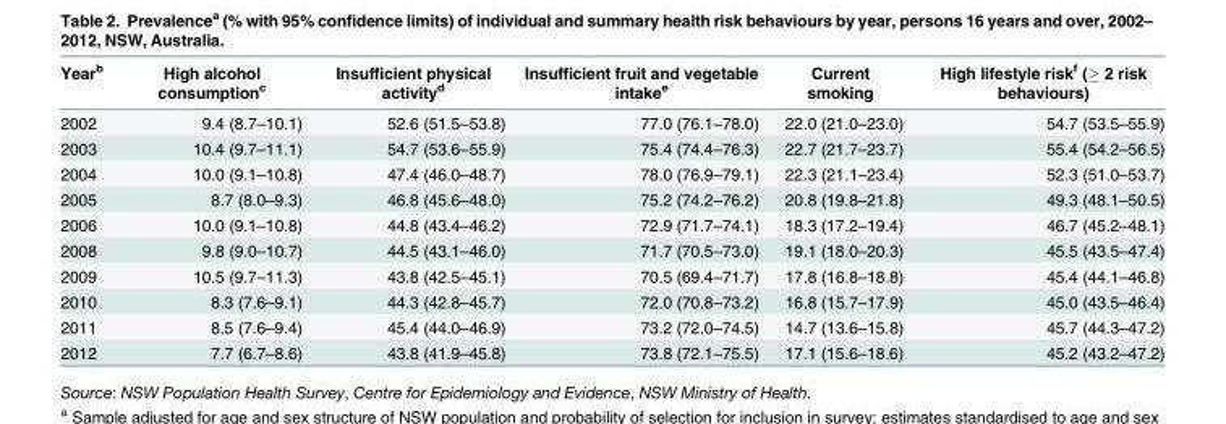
<table><thead><tr><td>Year<sup>b</sup></td><td>High alcohol consumption<sup>c</sup></td><td>Insufficient physical activity<sup>d</sup></td><td>Insufficient fruit and vegetable intake<sup>e</sup></td><td>Current smoking</td><td>High lifestyle risk<sup>f</sup> (≥ 2 risk behaviours)</td></tr></thead><tbody><tr><td>2002</td><td>9.4 (8.7–10.1)</td><td>52.6 (51.5–53.8)</td><td>77.0 (76.1–78.0)</td><td>22.0 (21.0–23.0)</td><td>54.7 (53.5–55.9)</td></tr><tr><td>2003</td><td>10.4 (9.7–11.1)</td><td>54.7 (53.6–55.9)</td><td>75.4 (74.4–76.3)</td><td>22.7 (21.7–23.7)</td><td>55.4 (54.2–56.5)</td></tr><tr><td>2004</td><td>10.0 (9.1–10.8)</td><td>47.4 (46.0–48.7)</td><td>78.0 (76.9–79.1)</td><td>22.3 (21.1–23.4)</td><td>52.3 (51.0–53.7)</td></tr><tr><td>2005</td><td>8.7 (8.0–9.3)</td><td>46.8 (45.6–48.0)</td><td>75.2 (74.2–76.2)</td><td>20.8 (19.8–21.8)</td><td>49.3 (48.1–50.5)</td></tr><tr><td>2006</td><td>10.0 (9.1–10.8)</td><td>44.8 (43.4–46.2)</td><td>72.9 (71.7–74.1)</td><td>18.3 (17.2–19.4)</td><td>46.7 (45.2–48.1)</td></tr><tr><td>2008</td><td>9.8 (9.0–10.7)</td><td>44.5 (43.1–46.0)</td><td>71.7 (70.5–73.0)</td><td>19.1 (18.0–20.3)</td><td>45.5 (43.5–47.4)</td></tr><tr><td>2009</td><td>10.5 (9.7–11.3)</td><td>43.8 (42.5–45.1)</td><td>70.5 (69.4–71.7)</td><td>17.8 (16.8–18.8)</td><td>45.4 (44.1–46.8)</td></tr><tr><td>2010</td><td>8.3 (7.6–9.1)</td><td>44.3 (42.8–45.7)</td><td>72.0 (70.8–73.2)</td><td>16.8 (15.7–17.9)</td><td>45.0 (43.5–46.4)</td></tr><tr><td>2011</td><td>8.5 (7.6–9.4)</td><td>45.4 (44.0–46.9)</td><td>73.2 (72.0–74.5)</td><td>14.7 (13.6–15.8)</td><td>45.7 (44.3–47.2)</td></tr><tr><td>2012</td><td>7.7 (6.7–8.6)</td><td>43.8 (41.9–45.8)</td><td>73.8 (72.1–75.5)</td><td>17.1 (15.6–18.6)</td><td>45.2 (43.2–47.2)</td></tr></tbody></table>